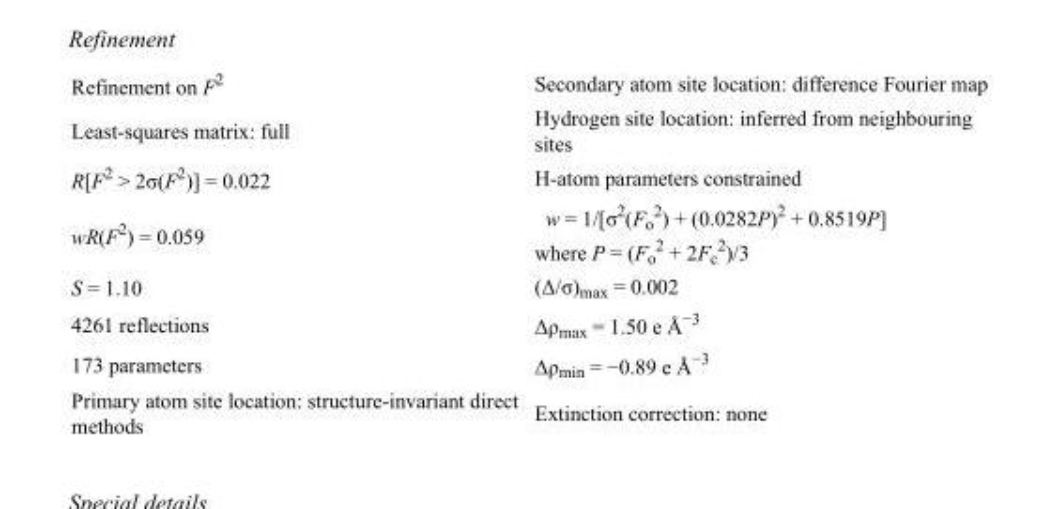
<table><tbody><tr><td>Refinement on F<sup>2</sup></td><td>Secondary atom site location: difference Fourier map</td></tr><tr><td>Least-squares matrix: full</td><td>Hydrogen site location: inferred from neighbouring sites</td></tr><tr><td>R[F<sup>2</sup> &gt; 2σ(F<sup>2</sup>)] = 0.022</td><td>H-atom parameters constrained</td></tr><tr><td>wR(F<sup>2</sup>) = 0.059</td><td>w = 1/[σ<sup>2</sup>(F<sub>o</sub> <sup>2</sup>) + (0.0282P)<sup>2</sup> + 0.8519P] where P = (F<sub>o</sub> <sup>2</sup> + 2F<sub>c</sub> <sup>2</sup>)/3</td></tr><tr><td>S = 1.10</td><td>(Δ/σ)<sub>max</sub> = 0.002</td></tr><tr><td>4261 reflections</td><td>Δρ<sub>max</sub> = 1.50 e Å<sup>−3</sup></td></tr><tr><td>173 parameters</td><td>Δρ<sub>min</sub> = −0.89 e Å<sup>−3</sup></td></tr><tr><td>Primary atom site location: structure-invariant direct methods</td><td>Extinction correction: none</td></tr></tbody></table>